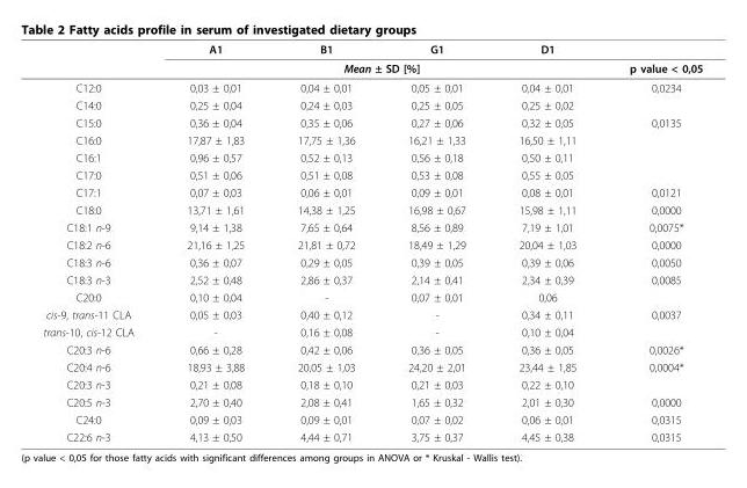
<table><thead><tr><td rowspan="2"></td><td>A1</td><td>B1</td><td>G1</td><td>D1</td><td rowspan="2">p value &lt; 0,05</td></tr><tr><td colspan="4">Mean ± SD [%]</td></tr></thead><tbody><tr><td>C12:0</td><td>0,03 ± 0,01</td><td>0,04 ± 0,01</td><td>0,05 ± 0,01</td><td>0,04 ± 0,01</td><td>0,0234</td></tr><tr><td>C14:0</td><td>0,25 ± 0,04</td><td>0,24 ± 0,03</td><td>0,25 ± 0,05</td><td>0,25 ± 0,02</td><td></td></tr><tr><td>C15:0</td><td>0,36 ± 0,04</td><td>0,35 ± 0,06</td><td>0,27 ± 0,06</td><td>0,32 ± 0,05</td><td>0,0135</td></tr><tr><td>C16:0</td><td>17,87 ± 1,83</td><td>17,75 ± 1,36</td><td>16,21 ± 1,33</td><td>16,50 ± 1,11</td><td></td></tr><tr><td>C16:1</td><td>0,96 ± 0,57</td><td>0,52 ± 0,13</td><td>0,56 ± 0,18</td><td>0,50 ± 0,11</td><td></td></tr><tr><td>C17:0</td><td>0,51 ± 0,06</td><td>0,51 ± 0,08</td><td>0,53 ± 0,08</td><td>0,55 ± 0,05</td><td></td></tr><tr><td>C17:1</td><td>0,07 ± 0,03</td><td>0,06 ± 0,01</td><td>0,09 ± 0,01</td><td>0,08 ± 0,01</td><td>0,0121</td></tr><tr><td>C18:0</td><td>13,71 ± 1,61</td><td>14,38 ± 1,25</td><td>16,98 ± 0,67</td><td>15,98 ± 1,11</td><td>0,0000</td></tr><tr><td>C18:1 n-9</td><td>9,14 ± 1,38</td><td>7,65 ± 0,64</td><td>8,56 ± 0,89</td><td>7,19 ± 1,01</td><td>0,0075*</td></tr><tr><td>C18:2 n-6</td><td>21,16 ± 1,25</td><td>21,81 ± 0,72</td><td>18,49 ± 1,29</td><td>20,04 ± 1,03</td><td>0,0000</td></tr><tr><td>C18:3 n-6</td><td>0,36 ± 0,07</td><td>0,29 ± 0,05</td><td>0,39 ± 0,05</td><td>0,39 ± 0,06</td><td>0,0050</td></tr><tr><td>C18:3 n-3</td><td>2,52 ± 0,48</td><td>2,86 ± 0,37</td><td>2,14 ± 0,41</td><td>2,34 ± 0,39</td><td>0,0085</td></tr><tr><td>C20:0</td><td>0,10 ± 0,04</td><td>-</td><td>0,07 ± 0,01</td><td>0,06</td><td></td></tr><tr><td>cis-9, trans-11 CLA</td><td>0,05 ± 0,03</td><td>0,40 ± 0,12</td><td>-</td><td>0,34 ± 0,11</td><td>0,0037</td></tr><tr><td>trans-10, cis-12 CLA</td><td>-</td><td>0,16 ± 0,08</td><td>-</td><td>0,10 ± 0,04</td><td></td></tr><tr><td>C20:3 n-6</td><td>0,66 ± 0,28</td><td>0,42 ± 0,06</td><td>0,36 ± 0,05</td><td>0,36 ± 0,05</td><td>0,0026*</td></tr><tr><td>C20:4 n-6</td><td>18,93 ± 3,88</td><td>20,05 ± 1,03</td><td>24,20 ± 2,01</td><td>23,44 ± 1,85</td><td>0,0004*</td></tr><tr><td>C20:3 n-3</td><td>0,21 ± 0,08</td><td>0,18 ± 0,10</td><td>0,21 ± 0,03</td><td>0,22 ± 0,10</td><td></td></tr><tr><td>C20:5 n-3</td><td>2,70 ± 0,40</td><td>2,08 ± 0,41</td><td>1,65 ± 0,32</td><td>2,01 ± 0,30</td><td>0,0000</td></tr><tr><td>C24:0</td><td>0,09 ± 0,03</td><td>0,09 ± 0,01</td><td>0,07 ± 0,02</td><td>0,06 ± 0,01</td><td>0,0315</td></tr><tr><td>C22:6 n-3</td><td>4,13 ± 0,50</td><td>4,44 ± 0,71</td><td>3,75 ± 0,37</td><td>4,45 ± 0,38</td><td>0,0315</td></tr></tbody></table>